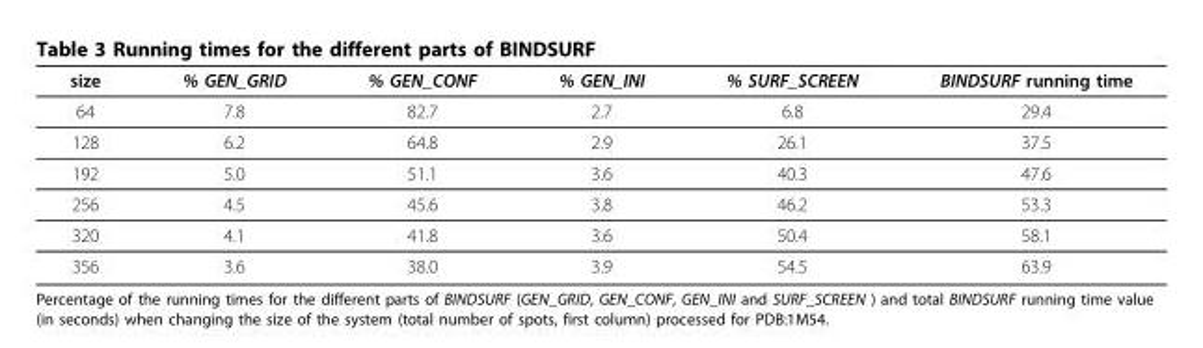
<table><thead><tr><td>size</td><td>% GEN_GRID</td><td>% GEN_CONF</td><td>% GEN_INI</td><td>% SURF_SCREEN</td><td>BINDSURF running time</td></tr></thead><tbody><tr><td>64</td><td>7.8</td><td>82.7</td><td>2.7</td><td>6.8</td><td>29.4</td></tr><tr><td>128</td><td>6.2</td><td>64.8</td><td>2.9</td><td>26.1</td><td>37.5</td></tr><tr><td>192</td><td>5.0</td><td>51.1</td><td>3.6</td><td>40.3</td><td>47.6</td></tr><tr><td>256</td><td>4.5</td><td>45.6</td><td>3.8</td><td>46.2</td><td>53.3</td></tr><tr><td>320</td><td>4.1</td><td>41.8</td><td>3.6</td><td>50.4</td><td>58.1</td></tr><tr><td>356</td><td>3.6</td><td>38.0</td><td>3.9</td><td>54.5</td><td>63.9</td></tr></tbody></table>